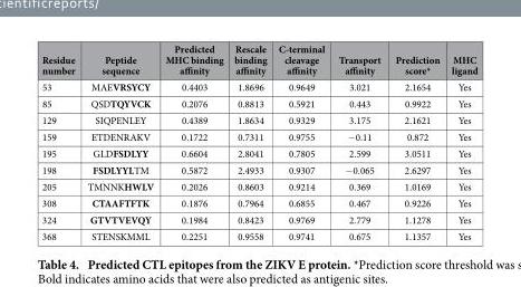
<table><thead><tr><td>Residue number</td><td>Peptide sequence</td><td>Predicted MHC binding affinity</td><td>Rescale binding affinity</td><td>C-terminal cleavage affinity</td><td>Transport affinity</td><td>Prediction score*</td><td>MHC ligand</td></tr></thead><tbody><tr><td>53</td><td>MAEVRSYCY</td><td>0.4403</td><td>1.8696</td><td>0.9649</td><td>3.021</td><td>2.1654</td><td>Yes</td></tr><tr><td>85</td><td>QSDTQYVCK</td><td>0.2076</td><td>0.8813</td><td>0.5921</td><td>0.443</td><td>0.9922</td><td>Yes</td></tr><tr><td>129</td><td>SIQPENLEY</td><td>0.4389</td><td>1.8634</td><td>0.9329</td><td>3.175</td><td>2.1621</td><td>Yes</td></tr><tr><td>159</td><td>ETDENRAKV</td><td>0.1722</td><td>0.7311</td><td>0.9755</td><td>− 0.11</td><td>0.872</td><td>Yes</td></tr><tr><td>195</td><td>GLDFSDLYY</td><td>0.6604</td><td>2.8041</td><td>0.7805</td><td>2.599</td><td>3.0511</td><td>Yes</td></tr><tr><td>198</td><td>FSDLYYLTM</td><td>0.5872</td><td>2.4933</td><td>0.9307</td><td>− 0.065</td><td>2.6297</td><td>Yes</td></tr><tr><td>205</td><td>TMNNKHWLV</td><td>0.2026</td><td>0.8603</td><td>0.9214</td><td>0.369</td><td>1.0169</td><td>Yes</td></tr><tr><td>308</td><td>CTAAFTFTK</td><td>0.1876</td><td>0.7964</td><td>0.6855</td><td>0.467</td><td>0.9226</td><td>Yes</td></tr><tr><td>324</td><td>GTVTVEVQY</td><td>0.1984</td><td>0.8423</td><td>0.9769</td><td>2.779</td><td>1.1278</td><td>Yes</td></tr><tr><td>368</td><td>STENSKMML</td><td>0.2251</td><td>0.9558</td><td>0.9741</td><td>0.675</td><td>1.1357</td><td>Yes</td></tr></tbody></table>